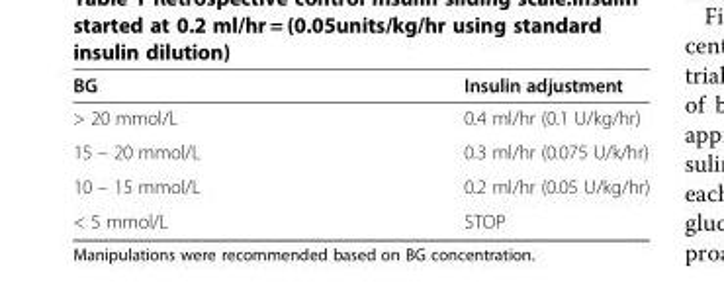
<table><thead><tr><td>BG</td><td>Insulin adjustment</td></tr></thead><tbody><tr><td>&gt; 20 mmol/L</td><td>0.4 ml/hr (0.1 U/kg/hr)</td></tr><tr><td>15 – 20 mmol/L</td><td>0.3 ml/hr (0.075 U/k/hr)</td></tr><tr><td>10 – 15 mmol/L</td><td>0.2 ml/hr (0.05 U/kg/hr)</td></tr><tr><td>&lt; 5 mmol/L</td><td>STOP</td></tr></tbody></table>